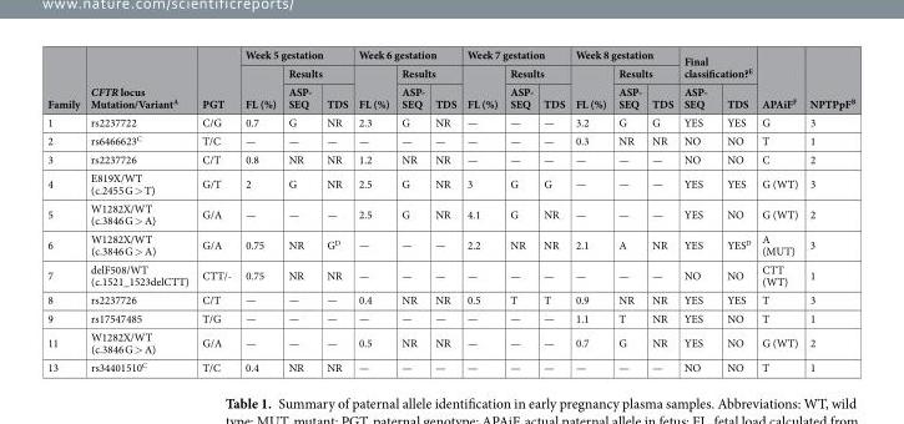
<table><thead><tr><td rowspan="3">Family</td><td rowspan="3">CFTR locus Mutation/Variant<sup>A</sup></td><td rowspan="3">PGT</td><td colspan="3">Week 5 gestation</td><td colspan="3">Week 6 gestation</td><td colspan="3">Week 7 gestation</td><td colspan="3">Week 8 gestation</td><td rowspan="2" colspan="2">Final classification?<sup>E</sup></td><td rowspan="3">APAiF<sup>F</sup></td><td rowspan="3">NPTPpF<sup>B</sup></td></tr><tr><td rowspan="2">FL (%)</td><td colspan="2">Results</td><td rowspan="2">FL (%)</td><td colspan="2">Results</td><td rowspan="2">FL (%)</td><td colspan="2">Results</td><td rowspan="2">FL (%)</td><td colspan="2">Results</td></tr><tr><td>ASP- SEQ</td><td>TDS</td><td>ASP- SEQ</td><td>TDS</td><td>ASP- SEQ</td><td>TDS</td><td>ASP- SEQ</td><td>TDS</td><td>ASP- SEQ</td><td>TDS</td></tr></thead><tbody><tr><td>1</td><td>rs2237722</td><td>C/G</td><td>0.7</td><td>G</td><td>NR</td><td>2.3</td><td>G</td><td>NR</td><td>—</td><td>—</td><td>—</td><td>3.2</td><td>G</td><td>G</td><td>YES</td><td>YES</td><td>G</td><td>3</td></tr><tr><td>2</td><td>rs6466623<sup>C</sup></td><td>T/C</td><td>—</td><td>—</td><td>—</td><td>—</td><td>—</td><td>—</td><td>—</td><td>—</td><td>—</td><td>0.3</td><td>NR</td><td>NR</td><td>NO</td><td>NO</td><td>T</td><td>1</td></tr><tr><td>3</td><td>rs2237726</td><td>C/T</td><td>0.8</td><td>NR</td><td>NR</td><td>1.2</td><td>NR</td><td>NR</td><td>—</td><td>—</td><td>—</td><td>—</td><td>—</td><td>—</td><td>NO</td><td>NO</td><td>C</td><td>2</td></tr><tr><td>4</td><td>E819X/WT (c.2455 G &gt; T)</td><td>G/T</td><td>2</td><td>G</td><td>NR</td><td>2.5</td><td>G</td><td>NR</td><td>3</td><td>G</td><td>G</td><td>—</td><td>—</td><td>—</td><td>YES</td><td>YES</td><td>G (WT)</td><td>3</td></tr><tr><td>5</td><td>W1282X/WT (c.3846 G &gt; A)</td><td>G/A</td><td>—</td><td>—</td><td>—</td><td>2.5</td><td>G</td><td>NR</td><td>4.1</td><td>G</td><td>NR</td><td>—</td><td>—</td><td>—</td><td>YES</td><td>NO</td><td>G (WT)</td><td>2</td></tr><tr><td>6</td><td>W1282X/WT (c.3846 G &gt; A)</td><td>G/A</td><td>0.75</td><td>NR</td><td>G<sup>D</sup></td><td>—</td><td>—</td><td>—</td><td>2.2</td><td>NR</td><td>NR</td><td>2.1</td><td>A</td><td>NR</td><td>YES</td><td>YES<sup>D</sup></td><td>A (MUT)</td><td>3</td></tr><tr><td>7</td><td>delF508/WT (c.1521_1523delCTT)</td><td>CTT/-</td><td>0.75</td><td>NR</td><td>NR</td><td>—</td><td>—</td><td>—</td><td>—</td><td>—</td><td>—</td><td>—</td><td>—</td><td>—</td><td>NO</td><td>NO</td><td>CTT (WT)</td><td>1</td></tr><tr><td>8</td><td>rs2237726</td><td>C/T</td><td>—</td><td>—</td><td>—</td><td>0.4</td><td>NR</td><td>NR</td><td>0.5</td><td>T</td><td>T</td><td>0.9</td><td>NR</td><td>NR</td><td>YES</td><td>YES</td><td>T</td><td>3</td></tr><tr><td>9</td><td>rs17547485</td><td>T/G</td><td>—</td><td>—</td><td>—</td><td>—</td><td>—</td><td>—</td><td>—</td><td>—</td><td>—</td><td>1.1</td><td>T</td><td>NR</td><td>YES</td><td>NO</td><td>T</td><td>1</td></tr><tr><td>11</td><td>W1282X/WT (c.3846 G &gt; A)</td><td>G/A</td><td>—</td><td>—</td><td>—</td><td>0.5</td><td>NR</td><td>NR</td><td>—</td><td>—</td><td>—</td><td>0.7</td><td>G</td><td>NR</td><td>YES</td><td>NO</td><td>G (WT)</td><td>2</td></tr><tr><td>13</td><td>rs34401510<sup>C</sup></td><td>T/C</td><td>0.4</td><td>NR</td><td>NR</td><td>—</td><td>—</td><td>—</td><td>—</td><td>—</td><td>—</td><td>—</td><td>—</td><td>—</td><td>NO</td><td>NO</td><td>T</td><td>1</td></tr></tbody></table>